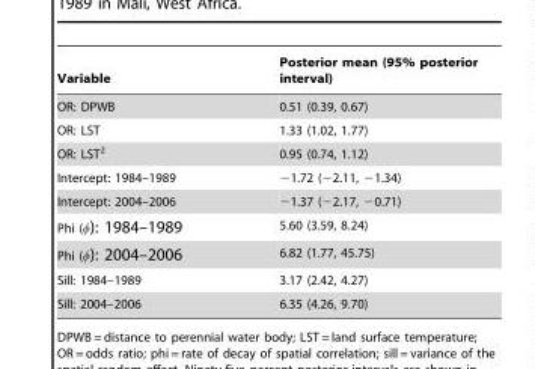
<table><thead><tr><td>Variable</td><td>Posterior mean (95% posterior interval)</td></tr></thead><tbody><tr><td>OR: DPWB</td><td>0.51 (0.39, 0.67)</td></tr><tr><td>OR: LST</td><td>1.33 (1.02, 1.77)</td></tr><tr><td>OR: LST<sup>2</sup></td><td>0.95 (0.74, 1.12)</td></tr><tr><td>Intercept: 1984–1989</td><td>−1.72 (−2.11, −1.34)</td></tr><tr><td>Intercept: 2004–2006</td><td>−1.37 (−2.17, −0.71)</td></tr><tr><td>Phi (w): 1984–1989</td><td>5.60 (3.59, 8.24)</td></tr><tr><td>Phi (w): 2004–2006</td><td>6.82 (1.77, 45.75)</td></tr><tr><td>Sill: 1984–1989</td><td>3.17 (2.42, 4.27)</td></tr><tr><td>Sill: 2004–2006</td><td>6.35 (4.26, 9.70)</td></tr></tbody></table>